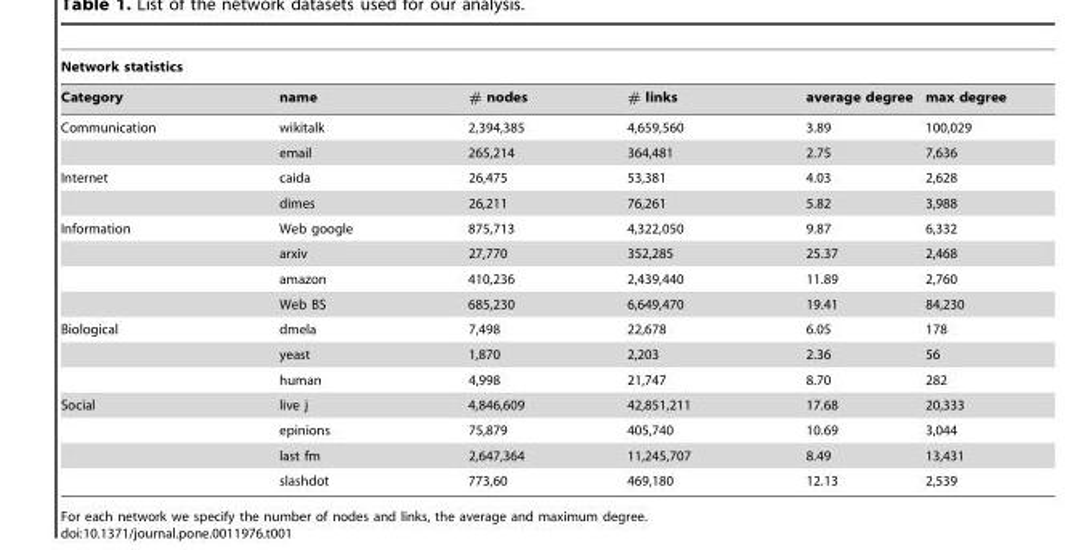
<table><thead><tr><td colspan="6">Network statistics</td></tr><tr><td>Category</td><td>name</td><td># nodes</td><td># links</td><td>average degree</td><td>max degree</td></tr></thead><tbody><tr><td rowspan="2">Communication</td><td>wikitalk</td><td>2,394,385</td><td>4,659,560</td><td>3.89</td><td>100,029</td></tr><tr><td>email</td><td>265,214</td><td>364,481</td><td>2.75</td><td>7,636</td></tr><tr><td rowspan="2">Internet</td><td>caida</td><td>26,475</td><td>53,381</td><td>4.03</td><td>2,628</td></tr><tr><td>dimes</td><td>26,211</td><td>76,261</td><td>5.82</td><td>3,988</td></tr><tr><td rowspan="4">Information</td><td>Web google</td><td>875,713</td><td>4,322,050</td><td>9.87</td><td>6,332</td></tr><tr><td>arxiv</td><td>27,770</td><td>352,285</td><td>25.37</td><td>2,468</td></tr><tr><td>amazon</td><td>410,236</td><td>2,439,440</td><td>11.89</td><td>2,760</td></tr><tr><td>Web BS</td><td>685,230</td><td>6,649,470</td><td>19.41</td><td>84,230</td></tr><tr><td rowspan="3">Biological</td><td>dmela</td><td>7,498</td><td>22,678</td><td>6.05</td><td>178</td></tr><tr><td>yeast</td><td>1,870</td><td>2,203</td><td>2.36</td><td>56</td></tr><tr><td>human</td><td>4,998</td><td>21,747</td><td>8.70</td><td>282</td></tr><tr><td rowspan="4">Social</td><td>live j</td><td>4,846,609</td><td>42,851,211</td><td>17.68</td><td>20,333</td></tr><tr><td>epinions</td><td>75,879</td><td>405,740</td><td>10.69</td><td>3,044</td></tr><tr><td>last fm</td><td>2,647,364</td><td>11,245,707</td><td>8.49</td><td>13,431</td></tr><tr><td>slashdot</td><td>773,60</td><td>469,180</td><td>12.13</td><td>2,539</td></tr></tbody></table>